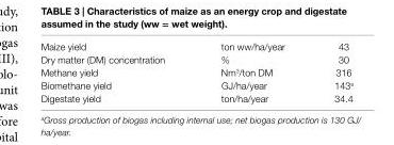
<table><tbody><tr><td>Maize yield</td><td>ton ww/ha/year</td><td>43</td></tr><tr><td>Dry matter (DM) concentration</td><td>%</td><td>30</td></tr><tr><td>Methane yield</td><td>Nm<sup>3</sup>/ton DM</td><td>316</td></tr><tr><td>Biomethane yield</td><td>GJ/ha/year</td><td>143<sup>a</sup></td></tr><tr><td>Digestate yield</td><td>ton/ha/year</td><td>34.4</td></tr></tbody></table>